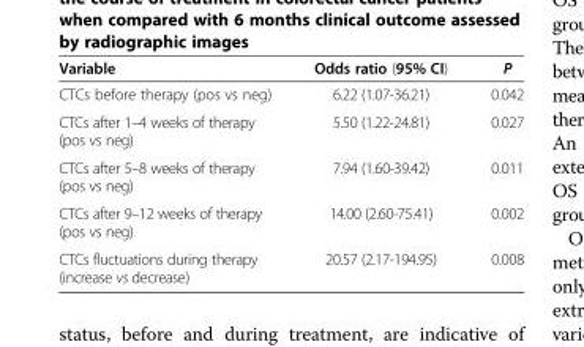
<table><thead><tr><td>Variable</td><td>Odds ratio (95% CI)</td><td>P</td></tr></thead><tbody><tr><td>CTCs before therapy (pos vs neg)</td><td>6.22 (1.07-36.21)</td><td>0.042</td></tr><tr><td>CTCs after 1–4 weeks of therapy (pos vs neg)</td><td>5.50 (1.22-24.81)</td><td>0.027</td></tr><tr><td>CTCs after 5–8 weeks of therapy (pos vs neg)</td><td>7.94 (1.60-39.42)</td><td>0.011</td></tr><tr><td>CTCs after 9–12 weeks of therapy (pos vs neg)</td><td>14.00 (2.60-75.41)</td><td>0.002</td></tr><tr><td>CTCs fluctuations during therapy (increase vs decrease)</td><td>20.57 (2.17-194.95)</td><td>0.008</td></tr></tbody></table>